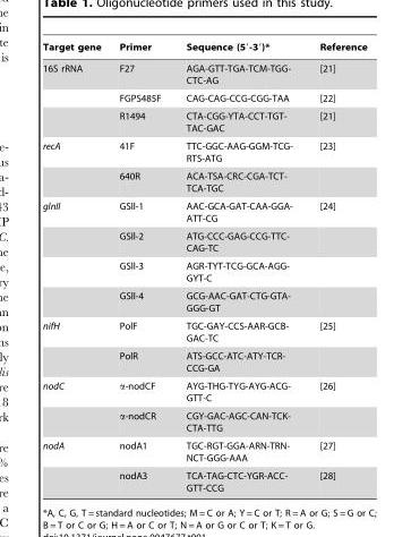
<table><thead><tr><td>Target gene</td><td>Primer</td><td>Sequence (5′-3′)*</td><td>Reference</td></tr></thead><tbody><tr><td rowspan="3">16S rRNA</td><td>F27</td><td>AGA-GTT-TGA-TCM-TGG- CTC-AG</td><td>[21]</td></tr><tr><td>FGPS485F</td><td>CAG-CAG-CCG-CGG-TAA</td><td>[22]</td></tr><tr><td>R1494</td><td>CTA-CGG-YTA-CCT-TGT- TAC-GAC</td><td>[21]</td></tr><tr><td rowspan="2">recA</td><td>41F</td><td>TTC-GGC-AAG-GGM-TCG- RTS-ATG</td><td>[23]</td></tr><tr><td>640R</td><td>ACA-TSA-CRC-CGA-TCT- TCA-TGC</td><td></td></tr><tr><td rowspan="4">glnII</td><td>GSll-1</td><td>AAC-GCA-GAT-CAA-GGA- ATT-CG</td><td>[24]</td></tr><tr><td>GSll-2</td><td>ATG-CCC-GAG-CCG-TTC- CAG-TC</td><td></td></tr><tr><td>GSll-3</td><td>AGR-TYT-TCG-GCA-AGG- GYT-C</td><td></td></tr><tr><td>GSll-4</td><td>GCG-AAC-GAT-CTG-GTA- GGG-GT</td><td></td></tr><tr><td rowspan="2">nifH</td><td>PolF</td><td>TGC-GAY-CCS-AAR-GCB- GAC-TC</td><td>[25]</td></tr><tr><td>PolR</td><td>ATS-GCC-ATC-ATY-TCR- CCG-GA</td><td></td></tr><tr><td rowspan="2">nodC</td><td>α-nodCF</td><td>AYG-THG-TYG-AYG-ACG- GTT-C</td><td>[26]</td></tr><tr><td>α-nodCR</td><td>CGY-GAC-AGC-CAN-TCK- CTA-TTG</td><td></td></tr><tr><td rowspan="2">nodA</td><td>nodA1</td><td>TGC-RGT-GGA-ARN-TRN- NCT-GGG-AAA</td><td>[27]</td></tr><tr><td>nodA3</td><td>TCA-TAG-CTC-YGR-ACC- GTT-CCG</td><td>[28]</td></tr></tbody></table>